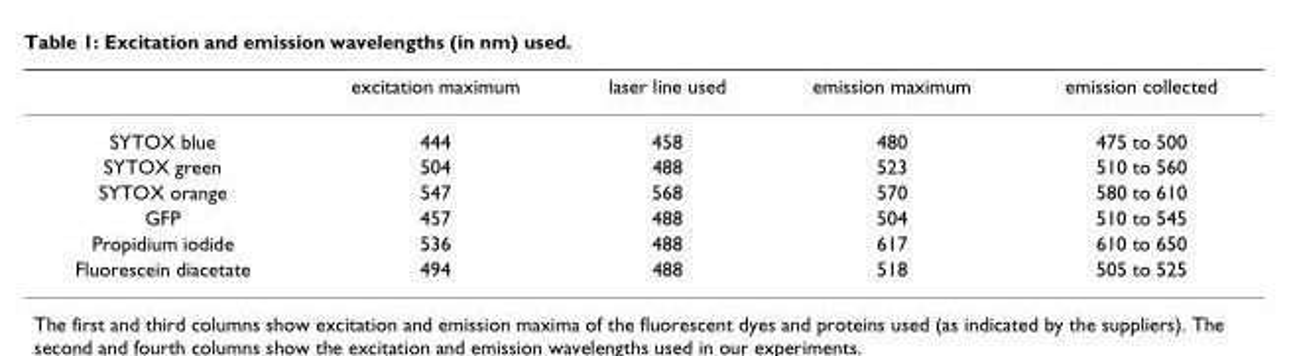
<table><thead><tr><td></td><td>excitation maximum</td><td>laser line used</td><td>emission maximum</td><td>emission collected</td></tr></thead><tbody><tr><td>SYTOX blue</td><td>444</td><td>458</td><td>480</td><td>475 to 500</td></tr><tr><td>SYTOX green</td><td>504</td><td>488</td><td>523</td><td>510 to 560</td></tr><tr><td>SYTOX orange</td><td>547</td><td>568</td><td>570</td><td>580 to 610</td></tr><tr><td>GFP</td><td>457</td><td>488</td><td>504</td><td>510 to 545</td></tr><tr><td>Propidium iodide</td><td>536</td><td>488</td><td>617</td><td>610 to 650</td></tr><tr><td>Fluorescein diacetate</td><td>494</td><td>488</td><td>518</td><td>505 to 525</td></tr></tbody></table>